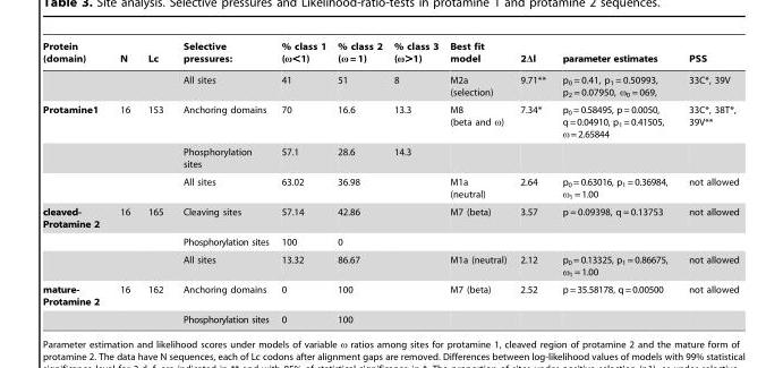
<table><thead><tr><td>Protein (domain)</td><td>N</td><td>Lc</td><td>Selective pressures:</td><td>% class 1 (ω&lt;1)</td><td>% class 2 (ω = 1)</td><td>% class 3 (ω&gt;1)</td><td>Best fit model</td><td>2Δl</td><td>parameter estimates</td><td>PSS</td></tr></thead><tbody><tr><td></td><td></td><td></td><td>All sites</td><td>41</td><td>51</td><td>8</td><td>M2a (selection)</td><td>9.71**</td><td>p<sub>0</sub> = 0.41, p<sub>1</sub> = 0.50993, p<sub>2</sub> = 0.07950, ω<sub>0</sub> = 069,</td><td>33C*, 39V</td></tr><tr><td rowspan="3">Protamine1</td><td>16</td><td>153</td><td>Anchoring domains</td><td>70</td><td>16.6</td><td>13.3</td><td>M8 (beta and ω)</td><td>7.34*</td><td>p<sub>0</sub>=0.58495, p=0.0050, q=0.04910, p<sub>1</sub>=0.41505, ω=2.65844</td><td>33C*, 38T*, 39V**</td></tr><tr><td></td><td></td><td>Phosphorylation sites</td><td>57.1</td><td>28.6</td><td>14.3</td><td></td><td></td><td></td><td></td></tr><tr><td></td><td></td><td>All sites</td><td>63.02</td><td>36.98</td><td></td><td>M1a (neutral)</td><td>2.64</td><td>p<sub>0</sub>=0.63016, p<sub>1</sub>=0.36984, ω<sub>1</sub>=1.00</td><td>not allowed</td></tr><tr><td rowspan="3">cleaved- Protamine 2</td><td>16</td><td>165</td><td>Cleaving sites</td><td>57.14</td><td>42.86</td><td></td><td>M7 (beta)</td><td>3.57</td><td>p = 0.09398, q = 0.13753</td><td>not allowed</td></tr><tr><td></td><td></td><td>Phosphorylation sites</td><td>100</td><td>0</td><td></td><td></td><td></td><td></td><td></td></tr><tr><td></td><td></td><td>All sites</td><td>13.32</td><td>86.67</td><td></td><td>M1a (neutral)</td><td>2.12</td><td>p<sub>0</sub>=0.13325, p<sub>1</sub>=0.86675, ω<sub>1</sub>=1.00</td><td>not allowed</td></tr><tr><td rowspan="2">mature- Protamine 2</td><td>16</td><td>162</td><td>Anchoring domains</td><td>0</td><td>100</td><td></td><td>M7 (beta)</td><td>2.52</td><td>p=35.58178, q=0.00500</td><td>not allowed</td></tr><tr><td></td><td></td><td>Phosphorylation sites</td><td>0</td><td>100</td><td></td><td></td><td></td><td></td><td></td></tr></tbody></table>